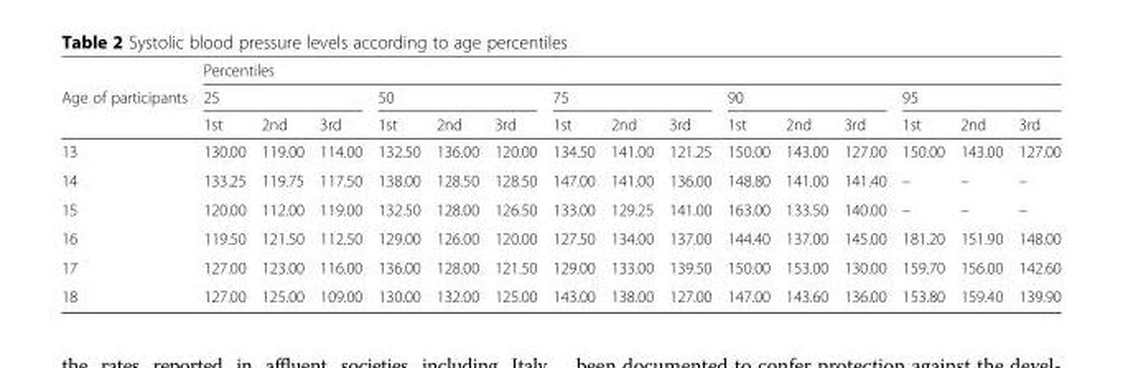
<table><thead><tr><td rowspan="3">Age of participants</td><td colspan="15">Percentiles</td></tr><tr><td colspan="3">25</td><td colspan="3">50</td><td colspan="3">75</td><td colspan="3">90</td><td colspan="3">95</td></tr><tr><td>1st</td><td>2nd</td><td>3rd</td><td>1st</td><td>2nd</td><td>3rd</td><td>1st</td><td>2nd</td><td>3rd</td><td>1st</td><td>2nd</td><td>3rd</td><td>1st</td><td>2nd</td><td>3rd</td></tr></thead><tbody><tr><td>13</td><td>130.00</td><td>119.00</td><td>114.00</td><td>132.50</td><td>136.00</td><td>120.00</td><td>134.50</td><td>141.00</td><td>121.25</td><td>150.00</td><td>143.00</td><td>127.00</td><td>150.00</td><td>143.00</td><td>127.00</td></tr><tr><td>14</td><td>133.25</td><td>119.75</td><td>117.50</td><td>138.00</td><td>128.50</td><td>128.50</td><td>147.00</td><td>141.00</td><td>136.00</td><td>148.80</td><td>141.00</td><td>141.40</td><td>–</td><td>–</td><td>–</td></tr><tr><td>15</td><td>120.00</td><td>112.00</td><td>119.00</td><td>132.50</td><td>128.00</td><td>126.50</td><td>133.00</td><td>129.25</td><td>141.00</td><td>163.00</td><td>133.50</td><td>140.00</td><td>–</td><td>–</td><td>–</td></tr><tr><td>16</td><td>119.50</td><td>121.50</td><td>112.50</td><td>129.00</td><td>126.00</td><td>120.00</td><td>127.50</td><td>134.00</td><td>137.00</td><td>144.40</td><td>137.00</td><td>145.00</td><td>181.20</td><td>151.90</td><td>148.00</td></tr><tr><td>17</td><td>127.00</td><td>123.00</td><td>116.00</td><td>136.00</td><td>128.00</td><td>121.50</td><td>129.00</td><td>133.00</td><td>139.50</td><td>150.00</td><td>153.00</td><td>130.00</td><td>159.70</td><td>156.00</td><td>142.60</td></tr><tr><td>18</td><td>127.00</td><td>125.00</td><td>109.00</td><td>130.00</td><td>132.00</td><td>125.00</td><td>143.00</td><td>138.00</td><td>127.00</td><td>147.00</td><td>143.60</td><td>136.00</td><td>153.80</td><td>159.40</td><td>139.90</td></tr></tbody></table>